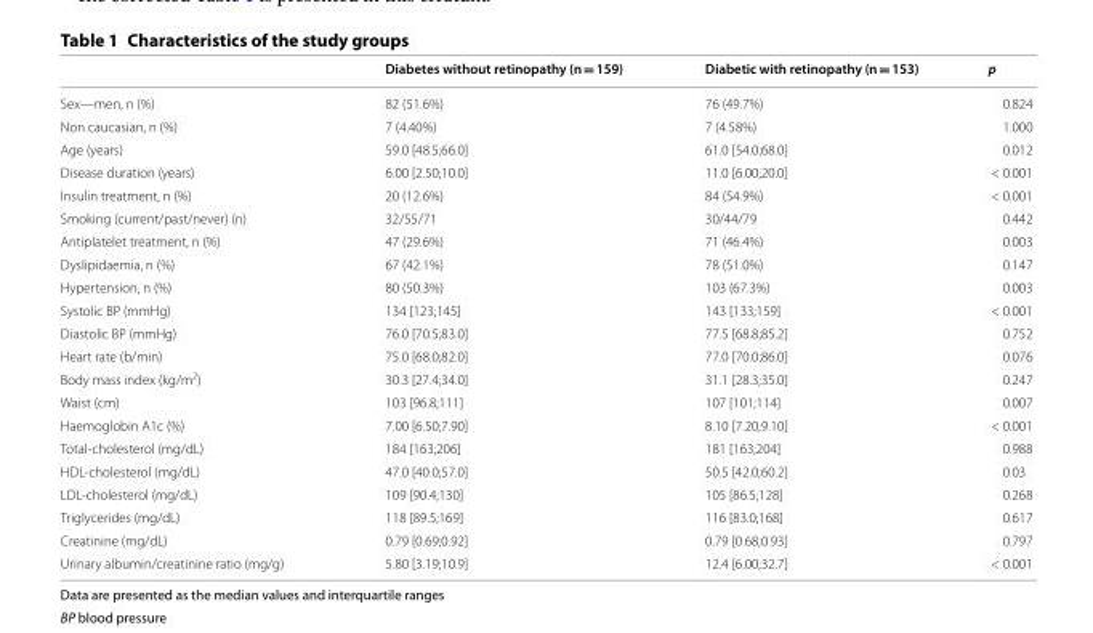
<table><thead><tr><td></td><td>Diabetes without retinopathy (n = 159)</td><td>Diabetic with retinopathy (n = 153)</td><td>p</td></tr></thead><tbody><tr><td>Sex—men, n (%)</td><td>82 (51.6%)</td><td>76 (49.7%)</td><td>0.824</td></tr><tr><td>Non caucasian, n (%)</td><td>7 (4.40%)</td><td>7 (4.58%)</td><td>1.000</td></tr><tr><td>Age (years)</td><td>59.0 [48.5;66.0]</td><td>61.0 [54.0;68.0]</td><td>0.012</td></tr><tr><td>Disease duration (years)</td><td>6.00 [2.50;10.0]</td><td>11.0 [6.00;20.0]</td><td>&lt; 0.001</td></tr><tr><td>Insulin treatment, n (%)</td><td>20 (12.6%)</td><td>84 (54.9%)</td><td>&lt; 0.001</td></tr><tr><td>Smoking (current/past/never) (n)</td><td>32/55/71</td><td>30/44/79</td><td>0.442</td></tr><tr><td>Antiplatelet treatment, n (%)</td><td>47 (29.6%)</td><td>71 (46.4%)</td><td>0.003</td></tr><tr><td>Dyslipidaemia, n (%)</td><td>67 (42.1%)</td><td>78 (51.0%)</td><td>0.147</td></tr><tr><td>Hypertension, n (%)</td><td>80 (50.3%)</td><td>103 (67.3%)</td><td>0.003</td></tr><tr><td>Systolic BP (mmHg)</td><td>134 [123;145]</td><td>143 [133;159]</td><td>&lt; 0.001</td></tr><tr><td>Diastolic BP (mmHg)</td><td>76.0 [70.5;83.0]</td><td>77.5 [68.8;85.2]</td><td>0.752</td></tr><tr><td>Heart rate (b/min)</td><td>75.0 [68.0;82.0]</td><td>77.0 [70.0;86.0]</td><td>0.076</td></tr><tr><td>Body mass index (kg/m<sup>2</sup>)</td><td>30.3 [27.4;34.0]</td><td>31.1 [28.3;35.0]</td><td>0.247</td></tr><tr><td>Waist (cm)</td><td>103 [96.8;111]</td><td>107 [101;114]</td><td>0.007</td></tr><tr><td>Haemoglobin A1c (%)</td><td>7.00 [6.50;7.90]</td><td>8.10 [7.20;9.10]</td><td>&lt; 0.001</td></tr><tr><td>Total-cholesterol (mg/dL)</td><td>184 [163;206]</td><td>181 [163;204]</td><td>0.988</td></tr><tr><td>HDL-cholesterol (mg/dL)</td><td>47.0 [40.0;57.0]</td><td>50.5 [42.0;60.2]</td><td>0.03</td></tr><tr><td>LDL-cholesterol (mg/dL)</td><td>109 [90.4;130]</td><td>105 [86.5;128]</td><td>0.268</td></tr><tr><td>Triglycerides (mg/dL)</td><td>118 [89.5;169]</td><td>116 [83.0;168]</td><td>0.617</td></tr><tr><td>Creatinine (mg/dL)</td><td>0.79 [0.69;0.92]</td><td>0.79 [0.68;0.93]</td><td>0.797</td></tr><tr><td>Urinary albumin/creatinine ratio (mg/g)</td><td>5.80 [3.19;10.9]</td><td>12.4 [6.00;32.7]</td><td>&lt; 0.001</td></tr></tbody></table>